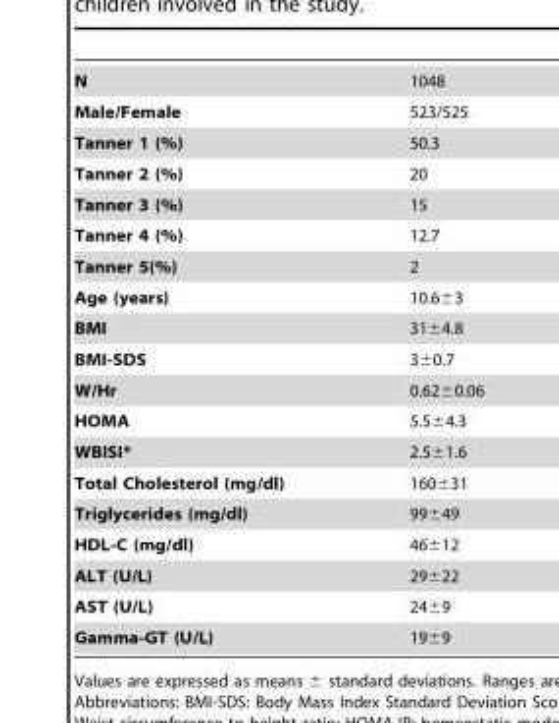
<table><tbody><tr><td>N</td><td>1048</td></tr><tr><td>Male/Female</td><td>523/525</td></tr><tr><td>Tanner 1 (%)</td><td>50.3</td></tr><tr><td>Tanner 2 (%)</td><td>20</td></tr><tr><td>Tanner 3 (%)</td><td>15</td></tr><tr><td>Tanner 4 (%)</td><td>12.7</td></tr><tr><td>Tanner 5(%)</td><td>2</td></tr><tr><td>Age (years)</td><td>10.6±3</td></tr><tr><td>BMI</td><td>31±4.8</td></tr><tr><td>BMI-SDS</td><td>3±0.7</td></tr><tr><td>W/Hr</td><td>0.62±0.06</td></tr><tr><td>HOMA</td><td>5.5±4.3</td></tr><tr><td>WBISI*</td><td>2.5±1.6</td></tr><tr><td>Total Cholesterol (mg/dl)</td><td>160±31</td></tr><tr><td>Triglycerides (mg/dl)</td><td>99±49</td></tr><tr><td>HDL-C (mg/dl)</td><td>46±12</td></tr><tr><td>ALT (U/L)</td><td>29±22</td></tr><tr><td>AST (U/L)</td><td>24±9</td></tr><tr><td>Gamma-GT (U/L)</td><td>19±9</td></tr></tbody></table>